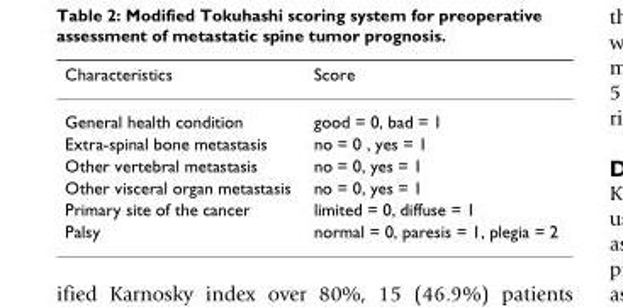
<table><thead><tr><td>Characteristics</td><td>Score</td></tr></thead><tbody><tr><td>General health condition</td><td>good = 0, bad = 1</td></tr><tr><td>Extra-spinal bone metastasis</td><td>no = 0 , yes = 1</td></tr><tr><td>Other vertebral metastasis</td><td>no = 0, yes = 1</td></tr><tr><td>Other visceral organ metastasis</td><td>no = 0, yes = 1</td></tr><tr><td>Primary site of the cancer</td><td>limited = 0, diffuse = 1</td></tr><tr><td>Palsy</td><td>normal = 0, paresis = 1, plegia = 2</td></tr></tbody></table>